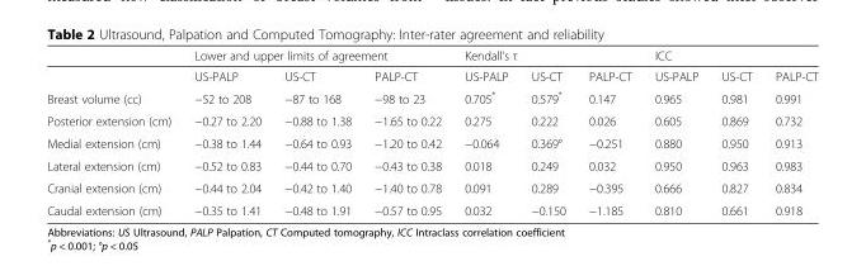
<table><thead><tr><td rowspan="2"></td><td colspan="3">Lower and upper limits of agreement</td><td colspan="3">Kendall’s τ</td><td colspan="3">ICC</td></tr><tr><td>US-PALP</td><td>US-CT</td><td>PALP-CT</td><td>US-PALP</td><td>US-CT</td><td>PALP-CT</td><td>US-PALP</td><td>US-CT</td><td>PALP-CT</td></tr></thead><tbody><tr><td>Breast volume (cc)</td><td>−52 to 208</td><td>−87 to 168</td><td>−98 to 23</td><td>0.705*</td><td>0.579*</td><td>0.147</td><td>0.965</td><td>0.981</td><td>0.991</td></tr><tr><td>Posterior extension (cm)</td><td>−0.27 to 2.20</td><td>−0.88 to 1.38</td><td>−1.65 to 0.22</td><td>0.275</td><td>0.222</td><td>0.026</td><td>0.605</td><td>0.869</td><td>0.732</td></tr><tr><td>Medial extension (cm)</td><td>−0.38 to 1.44</td><td>−0.64 to 0.93</td><td>−1.20 to 0.42</td><td>−0.064</td><td>0.369°</td><td>−0.251</td><td>0.880</td><td>0.950</td><td>0.913</td></tr><tr><td>Lateral extension (cm)</td><td>−0.52 to 0.83</td><td>−0.44 to 0.70</td><td>−0.43 to 0.38</td><td>0.018</td><td>0.249</td><td>0.032</td><td>0.950</td><td>0.963</td><td>0.983</td></tr><tr><td>Cranial extension (cm)</td><td>−0.44 to 2.04</td><td>−0.42 to 1.40</td><td>−1.40 to 0.78</td><td>0.091</td><td>0.289</td><td>−0.395</td><td>0.666</td><td>0.827</td><td>0.834</td></tr><tr><td>Caudal extension (cm)</td><td>−0.35 to 1.41</td><td>−0.48 to 1.91</td><td>−0.57 to 0.95</td><td>0.032</td><td>−0.150</td><td>−1.185</td><td>0.810</td><td>0.661</td><td>0.918</td></tr></tbody></table>